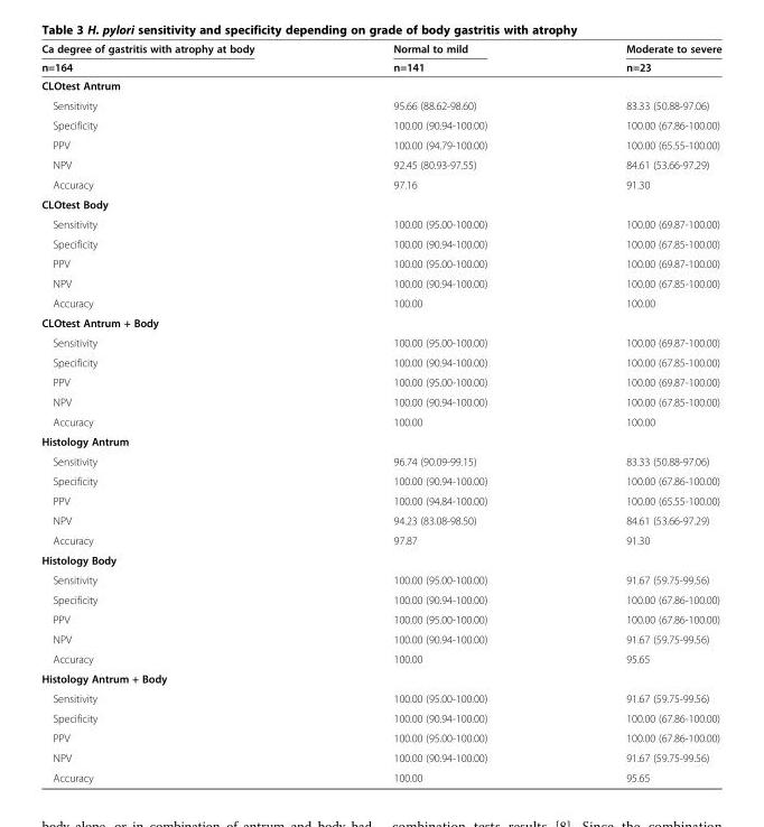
<table><thead><tr><td rowspan="2">Ca degree of gastritis with atrophy at body n=164</td><td rowspan="2">Normal to mild n=141</td><td rowspan="2">Moderate to severe n=23</td></tr><tr></tr></thead><tbody><tr><td colspan="3">CLOtest Antrum</td></tr><tr><td>Sensitivity</td><td>95.66 (88.62-98.60)</td><td>83.33 (50.88-97.06)</td></tr><tr><td>Specificity</td><td>100.00 (90.94-100.00)</td><td>100.00 (67.86-100.00)</td></tr><tr><td>PPV</td><td>100.00 (94.79-100.00)</td><td>100.00 (65.55-100.00)</td></tr><tr><td>NPV</td><td>92.45 (80.93-97.55)</td><td>84.61 (53.66-97.29)</td></tr><tr><td>Accuracy</td><td>97.16</td><td>91.30</td></tr><tr><td colspan="3">CLOtest Body</td></tr><tr><td>Sensitivity</td><td>100.00 (95.00-100.00)</td><td>100.00 (69.87-100.00)</td></tr><tr><td>Specificity</td><td>100.00 (90.94-100.00)</td><td>100.00 (67.85-100.00)</td></tr><tr><td>PPV</td><td>100.00 (95.00-100.00)</td><td>100.00 (69.87-100.00)</td></tr><tr><td>NPV</td><td>100.00 (90.94-100.00)</td><td>100.00 (67.85-100.00)</td></tr><tr><td>Accuracy</td><td>100.00</td><td>100.00</td></tr><tr><td colspan="3">CLOtest Antrum + Body</td></tr><tr><td>Sensitivity</td><td>100.00 (95.00-100.00)</td><td>100.00 (69.87-100.00)</td></tr><tr><td>Specificity</td><td>100.00 (90.94-100.00)</td><td>100.00 (67.85-100.00)</td></tr><tr><td>PPV</td><td>100.00 (95.00-100.00)</td><td>100.00 (69.87-100.00)</td></tr><tr><td>NPV</td><td>100.00 (90.94-100.00)</td><td>100.00 (67.85-100.00)</td></tr><tr><td>Accuracy</td><td>100.00</td><td>100.00</td></tr><tr><td colspan="3">Histology Antrum</td></tr><tr><td>Sensitivity</td><td>96.74 (90.09-99.15)</td><td>83.33 (50.88-97.06)</td></tr><tr><td>Specificity</td><td>100.00 (90.94-100.00)</td><td>100.00 (67.86-100.00)</td></tr><tr><td>PPV</td><td>100.00 (94.84-100.00)</td><td>100.00 (65.55-100.00)</td></tr><tr><td>NPV</td><td>94.23 (83.08-98.50)</td><td>84.61 (53.66-97.29)</td></tr><tr><td>Accuracy</td><td>97.87</td><td>91.30</td></tr><tr><td colspan="3">Histology Body</td></tr><tr><td>Sensitivity</td><td>100.00 (95.00-100.00)</td><td>91.67 (59.75-99.56)</td></tr><tr><td>Specificity</td><td>100.00 (90.94-100.00)</td><td>100.00 (67.86-100.00)</td></tr><tr><td>PPV</td><td>100.00 (95.00-100.00)</td><td>100.00 (67.86-100.00)</td></tr><tr><td>NPV</td><td>100.00 (90.94-100.00)</td><td>91.67 (59.75-99.56)</td></tr><tr><td>Accuracy</td><td>100.00</td><td>95.65</td></tr><tr><td colspan="3">Histology Antrum + Body</td></tr><tr><td>Sensitivity</td><td>100.00 (95.00-100.00)</td><td>91.67 (59.75-99.56)</td></tr><tr><td>Specificity</td><td>100.00 (90.94-100.00)</td><td>100.00 (67.86-100.00)</td></tr><tr><td>PPV</td><td>100.00 (95.00-100.00)</td><td>100.00 (67.86-100.00)</td></tr><tr><td>NPV</td><td>100.00 (90.94-100.00)</td><td>91.67 (59.75-99.56)</td></tr><tr><td>Accuracy</td><td>100.00</td><td>95.65</td></tr></tbody></table>